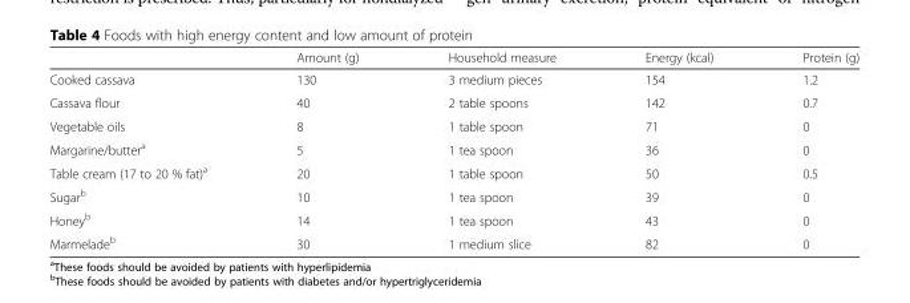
<table><thead><tr><td></td><td>Amount (g)</td><td>Household measure</td><td>Energy (kcal)</td><td>Protein (g)</td></tr></thead><tbody><tr><td>Cooked cassava</td><td>130</td><td>3 medium pieces</td><td>154</td><td>1.2</td></tr><tr><td>Cassava flour</td><td>40</td><td>2 table spoons</td><td>142</td><td>0.7</td></tr><tr><td>Vegetable oils</td><td>8</td><td>1 table spoon</td><td>71</td><td>0</td></tr><tr><td>Margarine/butter<sup>a</sup></td><td>5</td><td>1 tea spoon</td><td>36</td><td>0</td></tr><tr><td>Table cream (17 to 20 % fat)<sup>a</sup></td><td>20</td><td>1 table spoon</td><td>50</td><td>0.5</td></tr><tr><td>Sugar<sup>b</sup></td><td>10</td><td>1 tea spoon</td><td>39</td><td>0</td></tr><tr><td>Honey<sup>b</sup></td><td>14</td><td>1 tea spoon</td><td>43</td><td>0</td></tr><tr><td>Marmelade<sup>b</sup></td><td>30</td><td>1 medium slice</td><td>82</td><td>0</td></tr></tbody></table>